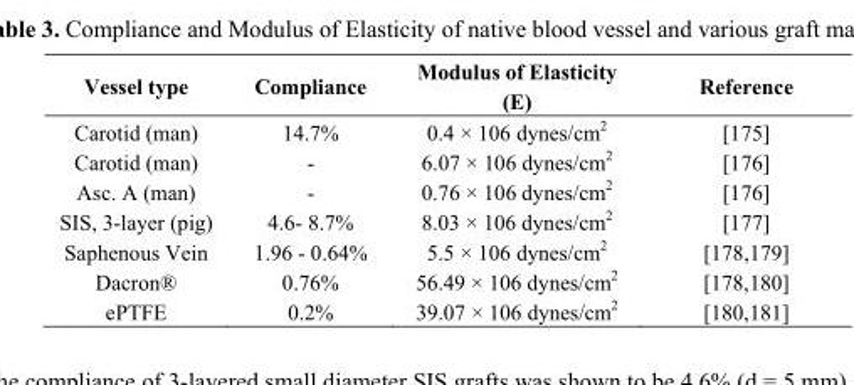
<table><thead><tr><td>Vessel type</td><td>Compliance</td><td>Modulus of Elasticity (E)</td><td>Reference</td></tr></thead><tbody><tr><td>Carotid (man)</td><td>14.7%</td><td>0.4 × 106 dynes/cm<sup>2</sup></td><td>[175]</td></tr><tr><td>Carotid (man)</td><td>-</td><td>6.07 × 106 dynes/cm<sup>2</sup></td><td>[176]</td></tr><tr><td>Asc. A (man)</td><td>-</td><td>0.76 × 106 dynes/cm<sup>2</sup></td><td>[176]</td></tr><tr><td>SIS, 3-layer (pig)</td><td>4.6- 8.7%</td><td>8.03 × 106 dynes/cm<sup>2</sup></td><td>[177]</td></tr><tr><td>Saphenous Vein</td><td>1.96 - 0.64%</td><td>5.5 × 106 dynes/cm<sup>2</sup></td><td>[178,179]</td></tr><tr><td>Dacron®</td><td>0.76%</td><td>56.49 × 106 dynes/cm<sup>2</sup></td><td>[178,180]</td></tr><tr><td>ePTFE</td><td>0.2%</td><td>39.07 × 106 dynes/cm<sup>2</sup></td><td>[180,181]</td></tr></tbody></table>